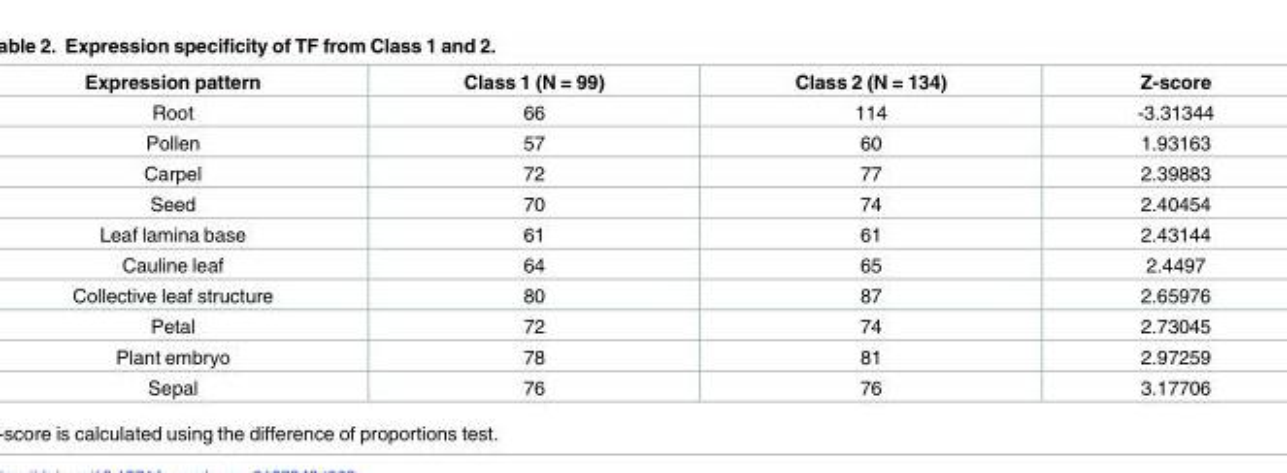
<table><thead><tr><td>Expression pattern</td><td>Class 1 (N = 99)</td><td>Class 2 (N = 134)</td><td>Z-score</td></tr></thead><tbody><tr><td>Root</td><td>66</td><td>114</td><td>-3.31344</td></tr><tr><td>Pollen</td><td>57</td><td>60</td><td>1.93163</td></tr><tr><td>Carpel</td><td>72</td><td>77</td><td>2.39883</td></tr><tr><td>Seed</td><td>70</td><td>74</td><td>2.40454</td></tr><tr><td>Leaf lamina base</td><td>61</td><td>61</td><td>2.43144</td></tr><tr><td>Cauline leaf</td><td>64</td><td>65</td><td>2.4497</td></tr><tr><td>Collective leaf structure</td><td>80</td><td>87</td><td>2.65976</td></tr><tr><td>Petal</td><td>72</td><td>74</td><td>2.73045</td></tr><tr><td>Plant embryo</td><td>78</td><td>81</td><td>2.97259</td></tr><tr><td>Sepal</td><td>76</td><td>76</td><td>3.17706</td></tr></tbody></table>